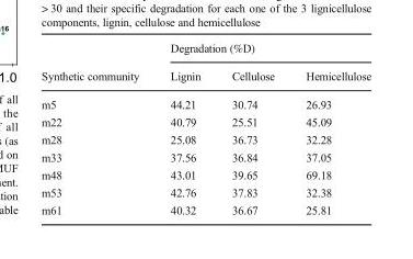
<table><thead><tr><td rowspan="2">Synthetic community</td><td colspan="3">Degradation (%D)</td></tr><tr><td>Lignin</td><td>Cellulose</td><td>Hemicellulose</td></tr></thead><tbody><tr><td>m5</td><td>44.21</td><td>30.74</td><td>26.93</td></tr><tr><td>m22</td><td>40.79</td><td>25.51</td><td>45.09</td></tr><tr><td>m28</td><td>25.08</td><td>36.73</td><td>32.28</td></tr><tr><td>m33</td><td>37.56</td><td>36.84</td><td>37.05</td></tr><tr><td>m48</td><td>43.01</td><td>39.65</td><td>69.18</td></tr><tr><td>m53</td><td>42.76</td><td>37.83</td><td>32.38</td></tr><tr><td>m61</td><td>40.32</td><td>36.67</td><td>25.81</td></tr></tbody></table>